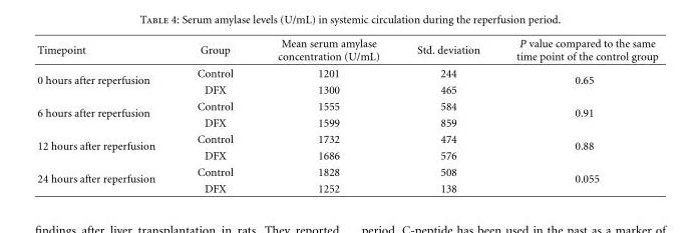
<table><thead><tr><td>Timepoint</td><td>Group</td><td>Mean serum amylase concentration (U/mL)</td><td>Std. deviation</td><td>P value compared to the same time point of the control group</td></tr></thead><tbody><tr><td rowspan="2">0 hours after reperfusion</td><td>Control</td><td>1201</td><td>244</td><td rowspan="2">0.65</td></tr><tr><td>DFX</td><td>1300</td><td>465</td></tr><tr><td rowspan="2">6 hours after reperfusion</td><td>Control</td><td>1555</td><td>584</td><td rowspan="2">0.91</td></tr><tr><td>DFX</td><td>1599</td><td>859</td></tr><tr><td rowspan="2">12 hours after reperfusion</td><td>Control</td><td>1732</td><td>474</td><td rowspan="2">0.88</td></tr><tr><td>DFX</td><td>1686</td><td>576</td></tr><tr><td rowspan="2">24 hours after reperfusion</td><td>Control</td><td>1828</td><td>508</td><td rowspan="2">0.055</td></tr><tr><td>DFX</td><td>1252</td><td>138</td></tr></tbody></table>